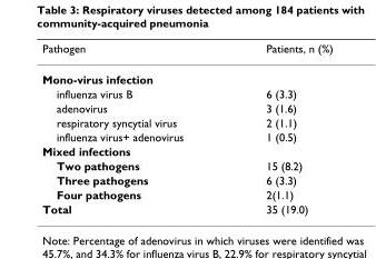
<table><thead><tr><td>Pathogen</td><td>Patients, n (%)</td></tr></thead><tbody><tr><td colspan="2">Mono-virus infection</td></tr><tr><td>influenza virus B</td><td>6 (3.3)</td></tr><tr><td>adenovirus</td><td>3 (1.6)</td></tr><tr><td>respiratory syncytial virus</td><td>2 (1.1)</td></tr><tr><td>influenza virus+ adenovirus</td><td>1 (0.5)</td></tr><tr><td colspan="2">Mixed infections</td></tr><tr><td>Two pathogens</td><td>15 (8.2)</td></tr><tr><td>Three pathogens</td><td>6 (3.3)</td></tr><tr><td>Four pathogens</td><td>2(1.1)</td></tr><tr><td>Total</td><td>35 (19.0)</td></tr></tbody></table>